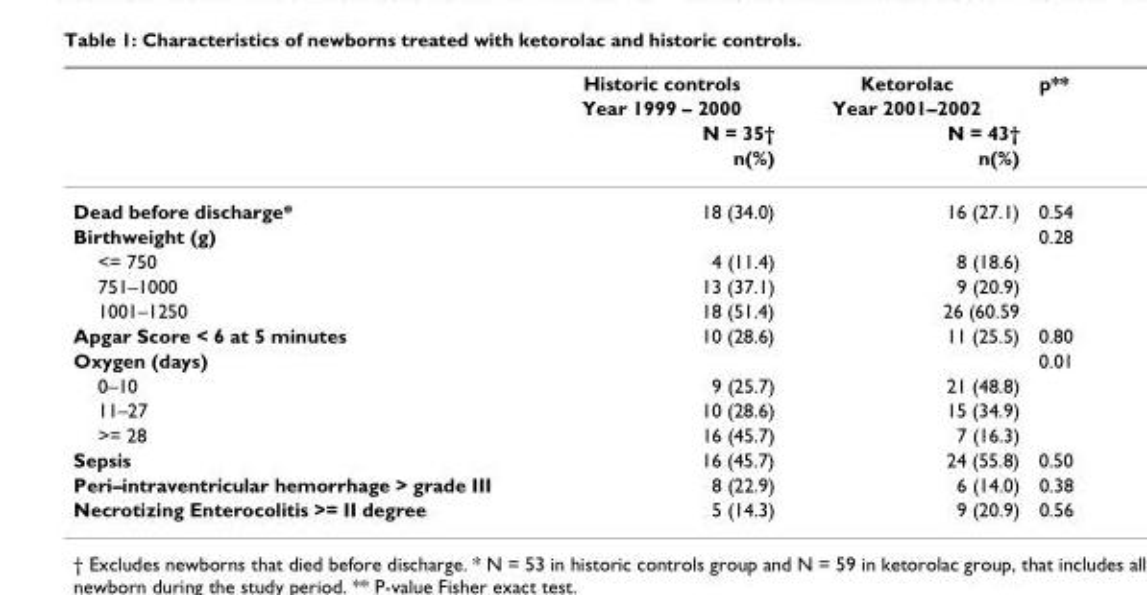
<table><thead><tr><td rowspan="4"></td><td rowspan="4">Historic controls Year 1999 – 2000 N = 35† n(%)</td><td rowspan="4">Ketorolac Year 2001–2002 N = 43† n(%)</td><td rowspan="4">p**</td></tr><tr></tr><tr></tr><tr></tr></thead><tbody><tr><td>Dead before discharge*</td><td>18 (34.0)</td><td>16 (27.1)</td><td>0.54</td></tr><tr><td>Birthweight (g)</td><td></td><td></td><td>0.28</td></tr><tr><td>&lt;= 750</td><td>4 (11.4)</td><td>8 (18.6)</td><td></td></tr><tr><td>751–1000</td><td>13 (37.1)</td><td>9 (20.9)</td><td></td></tr><tr><td>1001–1250</td><td>18 (51.4)</td><td>26 (60.59</td><td></td></tr><tr><td>Apgar Score &lt; 6 at 5 minutes</td><td>10 (28.6)</td><td>11 (25.5)</td><td>0.80</td></tr><tr><td>Oxygen (days)</td><td></td><td></td><td>0.01</td></tr><tr><td>0–10</td><td>9 (25.7)</td><td>21 (48.8)</td><td></td></tr><tr><td>11–27</td><td>10 (28.6)</td><td>15 (34.9)</td><td></td></tr><tr><td>&gt;= 28</td><td>16 (45.7)</td><td>7 (16.3)</td><td></td></tr><tr><td>Sepsis</td><td>16 (45.7)</td><td>24 (55.8)</td><td>0.50</td></tr><tr><td>Peri–intraventricular hemorrhage &gt; grade III</td><td>8 (22.9)</td><td>6 (14.0)</td><td>0.38</td></tr><tr><td>Necrotizing Enterocolitis &gt;= II degree</td><td>5 (14.3)</td><td>9 (20.9)</td><td>0.56</td></tr></tbody></table>